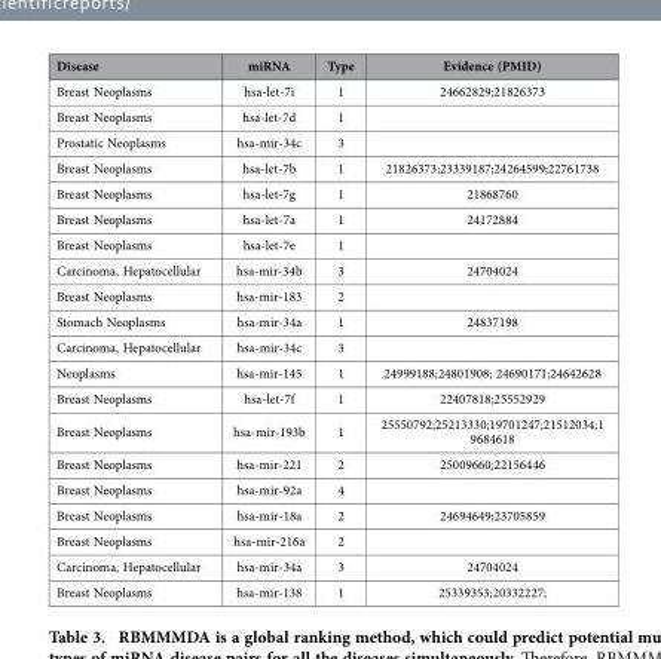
<table><thead><tr><td>Disease</td><td>miRNA</td><td>Type</td><td>Evidence (PMID)</td></tr></thead><tbody><tr><td>Breast Neoplasms</td><td>hsa-let-7i</td><td>1</td><td>24662829;21826373</td></tr><tr><td>Breast Neoplasms</td><td>hsa-let-7d</td><td>1</td><td></td></tr><tr><td>Prostatic Neoplasms</td><td>hsa-mir-34c</td><td>3</td><td></td></tr><tr><td>Breast Neoplasms</td><td>hsa-let-7b</td><td>1</td><td>21826373;23339187;24264599;22761738</td></tr><tr><td>Breast Neoplasms</td><td>hsa-let-7g</td><td>1</td><td>21868760</td></tr><tr><td>Breast Neoplasms</td><td>hsa-let-7a</td><td>1</td><td>24172884</td></tr><tr><td>Breast Neoplasms</td><td>hsa-let-7e</td><td>1</td><td></td></tr><tr><td>Carcinoma, Hepatocellular</td><td>hsa-mir-34b</td><td>3</td><td>24704024</td></tr><tr><td>Breast Neoplasms</td><td>hsa-mir-183</td><td>2</td><td></td></tr><tr><td>Stomach Neoplasms</td><td>hsa-mir-34a</td><td>1</td><td>24837198</td></tr><tr><td>Carcinoma, Hepatocellular</td><td>hsa-mir-34c</td><td>3</td><td></td></tr><tr><td>Neoplasms</td><td>hsa-mir-145</td><td>1</td><td>24999188;24801908; 24690171;24642628</td></tr><tr><td>Breast Neoplasms</td><td>hsa-let-7f</td><td>1</td><td>22407818;25552929</td></tr><tr><td>Breast Neoplasms</td><td>hsa-mir-193b</td><td>1</td><td>25550792;25213330;19701247;21512034;1 9684618</td></tr><tr><td>Breast Neoplasms</td><td>hsa-mir-221</td><td>2</td><td>25009660;22156446</td></tr><tr><td>Breast Neoplasms</td><td>hsa-mir-92a</td><td>4</td><td></td></tr><tr><td>Breast Neoplasms</td><td>hsa-mir-18a</td><td>2</td><td>24694649;23705859</td></tr><tr><td>Breast Neoplasms</td><td>hsa-mir-216a</td><td>2</td><td></td></tr><tr><td>Carcinoma, Hepatocellular</td><td>hsa-mir-34a</td><td>3</td><td>24704024</td></tr><tr><td>Breast Neoplasms</td><td>hsa-mir-138</td><td>1</td><td>25339353;20332227;</td></tr></tbody></table>